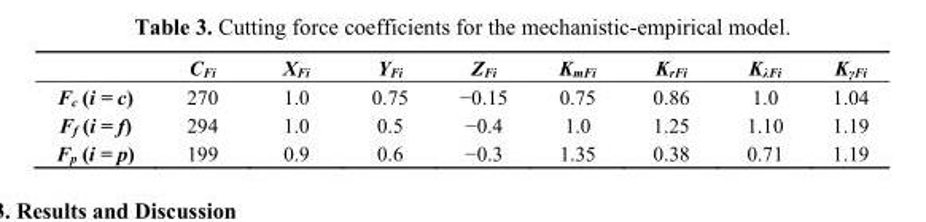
<table><thead><tr><td></td><td>C<sub>Fi</sub></td><td>X<sub>Fi</sub></td><td>Y<sub>Fi</sub></td><td>Z<sub>Fi</sub></td><td>K<sub>mFi</sub></td><td>K<sub>rFi</sub></td><td>K<sub>λFi</sub></td><td>K<sub>γFi</sub></td></tr></thead><tbody><tr><td>F<sub>c</sub> (i = c)</td><td>270</td><td>1.0</td><td>0.75</td><td>−0.15</td><td>0.75</td><td>0.86</td><td>1.0</td><td>1.04</td></tr><tr><td>F<sub>f</sub> (i = f)</td><td>294</td><td>1.0</td><td>0.5</td><td>−0.4</td><td>1.0</td><td>1.25</td><td>1.10</td><td>1.19</td></tr><tr><td>F<sub>p</sub> (i = p)</td><td>199</td><td>0.9</td><td>0.6</td><td>−0.3</td><td>1.35</td><td>0.38</td><td>0.71</td><td>1.19</td></tr></tbody></table>